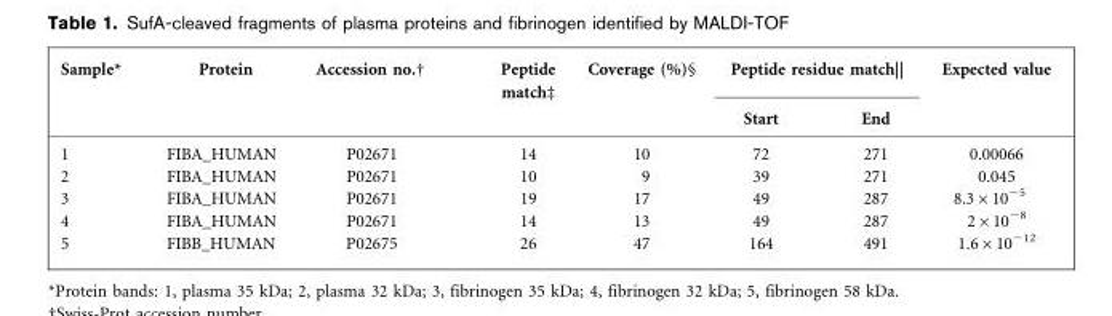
<table><thead><tr><td rowspan="2">Sample*</td><td rowspan="2">Protein</td><td rowspan="2">Accession no.†</td><td rowspan="2">Peptide match‡</td><td rowspan="2">Coverage (%)§</td><td colspan="2">Peptide residue match||</td><td rowspan="2">Expected value</td></tr><tr><td>Start</td><td>End</td></tr></thead><tbody><tr><td>1</td><td>FIBA_HUMAN</td><td>P02671</td><td>14</td><td>10</td><td>72</td><td>271</td><td>0.00066</td></tr><tr><td>2</td><td>FIBA_HUMAN</td><td>P02671</td><td>10</td><td>9</td><td>39</td><td>271</td><td>0.045</td></tr><tr><td>3</td><td>FIBA_HUMAN</td><td>P02671</td><td>19</td><td>17</td><td>49</td><td>287</td><td>8.3×10<sup>−5</sup></td></tr><tr><td>4</td><td>FIBA_HUMAN</td><td>P02671</td><td>14</td><td>13</td><td>49</td><td>287</td><td>2×10<sup>−8</sup></td></tr><tr><td>5</td><td>FIBB_HUMAN</td><td>P02675</td><td>26</td><td>47</td><td>164</td><td>491</td><td>1.6×10<sup>−12</sup></td></tr></tbody></table>